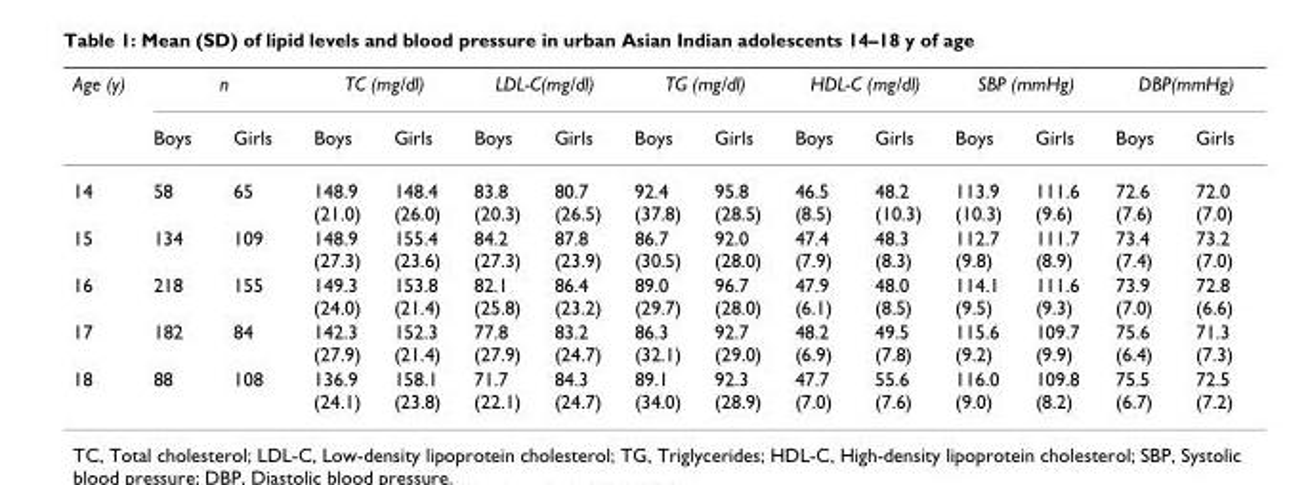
<table><thead><tr><td rowspan="2">Age (y)</td><td colspan="2">n</td><td colspan="2">TC (mg/dl)</td><td colspan="2">LDL-C(mg/dl)</td><td colspan="2">TG (mg/dl)</td><td colspan="2">HDL-C (mg/dl)</td><td colspan="2">SBP (mmHg)</td><td colspan="2">DBP(mmHg)</td></tr><tr><td>Boys</td><td>Girls</td><td>Boys</td><td>Girls</td><td>Boys</td><td>Girls</td><td>Boys</td><td>Girls</td><td>Boys</td><td>Girls</td><td>Boys</td><td>Girls</td><td>Boys</td><td>Girls</td></tr></thead><tbody><tr><td>14</td><td>58</td><td>65</td><td>148.9 (21.0)</td><td>148.4 (26.0)</td><td>83.8 (20.3)</td><td>80.7 (26.5)</td><td>92.4 (37.8)</td><td>95.8 (28.5)</td><td>46.5 (8.5)</td><td>48.2 (10.3)</td><td>113.9 (10.3)</td><td>111.6 (9.6)</td><td>72.6 (7.6)</td><td>72.0 (7.0)</td></tr><tr><td>15</td><td>134</td><td>109</td><td>148.9 (27.3)</td><td>155.4 (23.6)</td><td>84.2 (27.3)</td><td>87.8 (23.9)</td><td>86.7 (30.5)</td><td>92.0 (28.0)</td><td>47.4 (7.9)</td><td>48.3 (8.3)</td><td>112.7 (9.8)</td><td>111.7 (8.9)</td><td>73.4 (7.4)</td><td>73.2 (7.0)</td></tr><tr><td>16</td><td>218</td><td>155</td><td>149.3 (24.0)</td><td>153.8 (21.4)</td><td>82.1 (25.8)</td><td>86.4 (23.2)</td><td>89.0 (29.7)</td><td>96.7 (28.0)</td><td>47.9 (6.1)</td><td>48.0 (8.5)</td><td>114.1 (9.5)</td><td>111.6 (9.3)</td><td>73.9 (7.0)</td><td>72.8 (6.6)</td></tr><tr><td>17</td><td>182</td><td>84</td><td>142.3 (27.9)</td><td>152.3 (21.4)</td><td>77.8 (27.9)</td><td>83.2 (24.7)</td><td>86.3 (32.1)</td><td>92.7 (29.0)</td><td>48.2 (6.9)</td><td>49.5 (7.8)</td><td>115.6 (9.2)</td><td>109.7 (9.9)</td><td>75.6 (6.4)</td><td>71.3 (7.3)</td></tr><tr><td>18</td><td>88</td><td>108</td><td>136.9 (24.1)</td><td>158.1 (23.8)</td><td>71.7 (22.1)</td><td>84.3 (24.7)</td><td>89.1 (34.0)</td><td>92.3 (28.9)</td><td>47.7 (7.0)</td><td>55.6 (7.6)</td><td>116.0 (9.0)</td><td>109.8 (8.2)</td><td>75.5 (6.7)</td><td>72.5 (7.2)</td></tr></tbody></table>